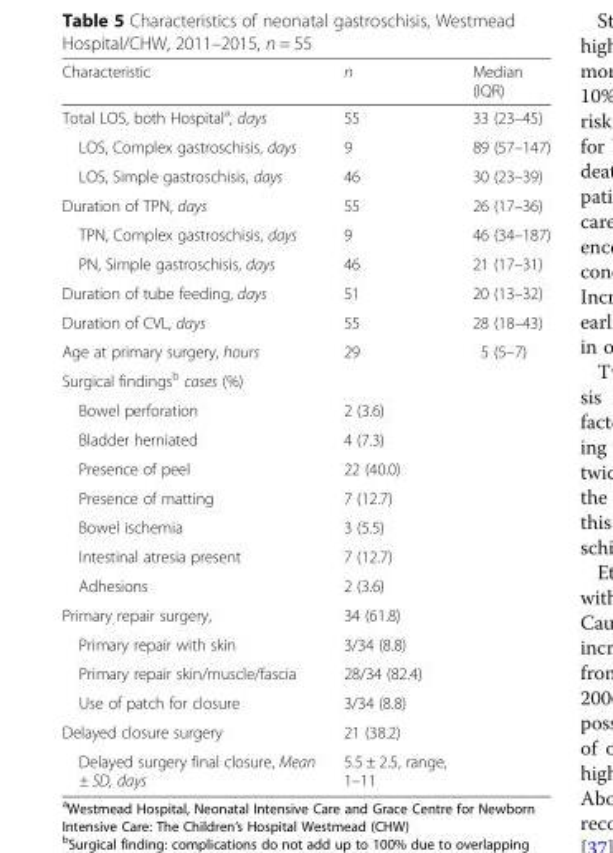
<table><thead><tr><td>Characteristic</td><td>n</td><td>Median (IQR)</td></tr></thead><tbody><tr><td>Total LOS, both Hospital<sup>a</sup>, days</td><td>55</td><td>33 (23–45)</td></tr><tr><td>LOS, Complex gastroschisis, days</td><td>9</td><td>89 (57–147)</td></tr><tr><td>LOS, Simple gastroschisis, days</td><td>46</td><td>30 (23–39)</td></tr><tr><td>Duration of TPN, days</td><td>55</td><td>26 (17–36)</td></tr><tr><td>TPN, Complex gastroschisis, days</td><td>9</td><td>46 (34–187)</td></tr><tr><td>PN, Simple gastroschisis, days</td><td>46</td><td>21 (17–31)</td></tr><tr><td>Duration of tube feeding, days</td><td>51</td><td>20 (13–32)</td></tr><tr><td>Duration of CVL, days</td><td>55</td><td>28 (18–43)</td></tr><tr><td>Age at primary surgery, hours</td><td>29</td><td>5 (5–7)</td></tr><tr><td colspan="3">Surgical findings<sup>b</sup> cases (%)</td></tr><tr><td>Bowel perforation</td><td>2 (3.6)</td><td></td></tr><tr><td>Bladder herniated</td><td>4 (7.3)</td><td></td></tr><tr><td>Presence of peel</td><td>22 (40.0)</td><td></td></tr><tr><td>Presence of matting</td><td>7 (12.7)</td><td></td></tr><tr><td>Bowel ischemia</td><td>3 (5.5)</td><td></td></tr><tr><td>Intestinal atresia present</td><td>7 (12.7)</td><td></td></tr><tr><td>Adhesions</td><td>2 (3.6)</td><td></td></tr><tr><td>Primary repair surgery,</td><td>34 (61.8)</td><td></td></tr><tr><td>Primary repair with skin</td><td>3/34 (8.8)</td><td></td></tr><tr><td>Primary repair skin/muscle/fascia</td><td>28/34 (82.4)</td><td></td></tr><tr><td>Use of patch for closure</td><td>3/34 (8.8)</td><td></td></tr><tr><td>Delayed closure surgery</td><td>21 (38.2)</td><td></td></tr><tr><td>Delayed surgery final closure, Mean ± SD, days</td><td>5.5 ± 2.5, range, 1–11</td><td></td></tr></tbody></table>